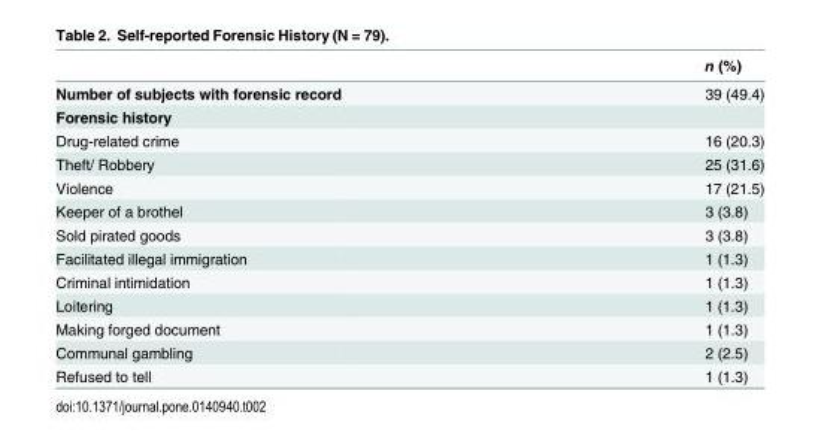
<table><thead><tr><td></td><td>n (%)</td></tr></thead><tbody><tr><td>Number of subjects with forensic record</td><td>39 (49.4)</td></tr><tr><td colspan="2">Forensic history</td></tr><tr><td>Drug-related crime</td><td>16 (20.3)</td></tr><tr><td>Theft/ Robbery</td><td>25 (31.6)</td></tr><tr><td>Violence</td><td>17 (21.5)</td></tr><tr><td>Keeper of a brothel</td><td>3 (3.8)</td></tr><tr><td>Sold pirated goods</td><td>3 (3.8)</td></tr><tr><td>Facilitated illegal immigration</td><td>1 (1.3)</td></tr><tr><td>Criminal intimidation</td><td>1 (1.3)</td></tr><tr><td>Loitering</td><td>1 (1.3)</td></tr><tr><td>Making forged document</td><td>1 (1.3)</td></tr><tr><td>Communal gambling</td><td>2 (2.5)</td></tr><tr><td>Refused to tell</td><td>1 (1.3)</td></tr></tbody></table>